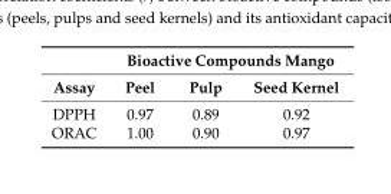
<table><thead><tr><td rowspan="2">Assay</td><td colspan="3">Bioactive Compounds Mango</td></tr><tr><td>Peel</td><td>Pulp</td><td>Seed Kernel</td></tr></thead><tbody><tr><td>DPPH</td><td>0.97</td><td>0.89</td><td>0.92</td></tr><tr><td>ORAC</td><td>1.00</td><td>0.90</td><td>0.97</td></tr></tbody></table>